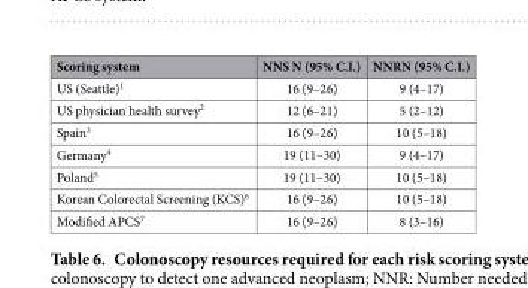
<table><thead><tr><td>Scoring system</td><td>NNS N (95% C.I.)</td><td>NNRN (95% C.I.)</td></tr></thead><tbody><tr><td>US (Seattle)<sup>1</sup></td><td>16 (9–26)</td><td>9 (4–17)</td></tr><tr><td>US physician health survey<sup>2</sup></td><td>12 (6–21)</td><td>5 (2–12)</td></tr><tr><td>Spain<sup>3</sup></td><td>16 (9–26)</td><td>10 (5–18)</td></tr><tr><td>Germany<sup>4</sup></td><td>19 (11–30)</td><td>9 (4–17)</td></tr><tr><td>Poland<sup>5</sup></td><td>19 (11–30)</td><td>10 (5–18)</td></tr><tr><td>Korean Colorectal Screening (KCS)<sup>6</sup></td><td>16 (9–26)</td><td>10 (5–18)</td></tr><tr><td>Modified APCS<sup>7</sup></td><td>16 (9–26)</td><td>8 (3–16)</td></tr></tbody></table>